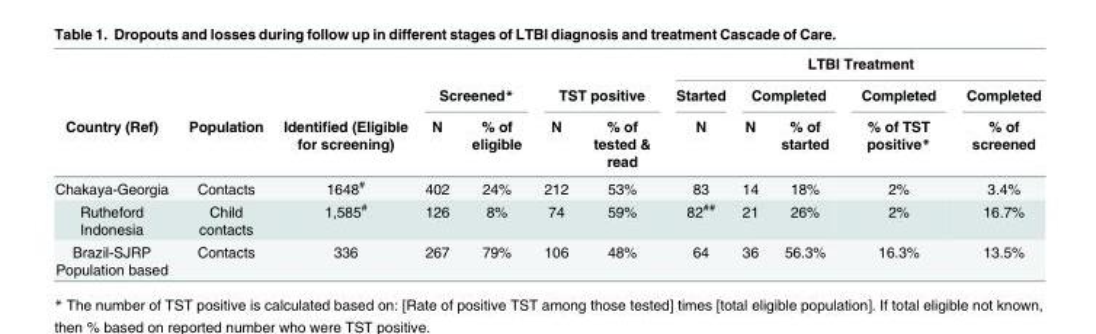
<table><thead><tr><td rowspan="3">Country (Ref)</td><td rowspan="3">Population</td><td rowspan="3">Identified (Eligible for screening)</td><td></td><td></td><td></td><td></td><td colspan="5">LTBI Treatment</td></tr><tr><td colspan="2">Screened*</td><td colspan="2">TST positive</td><td rowspan="2">Started N</td><td colspan="2">Completed</td><td rowspan="2">Completed % of TST positive*</td><td rowspan="2">Completed % of screened</td></tr><tr><td>N</td><td>% of eligible</td><td>N</td><td>% of tested &amp; read</td><td>N</td><td>% of started</td></tr></thead><tbody><tr><td>Chakaya-Georgia</td><td>Contacts</td><td>1648<sup>#</sup></td><td>402</td><td>24%</td><td>212</td><td>53%</td><td>83</td><td>14</td><td>18%</td><td>2%</td><td>3.4%</td></tr><tr><td>Rutheford Indonesia</td><td>Child contacts</td><td>1,585<sup>#</sup></td><td>126</td><td>8%</td><td>74</td><td>59%</td><td>82<sup>##</sup></td><td>21</td><td>26%</td><td>2%</td><td>16.7%</td></tr><tr><td>Brazil-SJRP Population based</td><td>Contacts</td><td>336</td><td>267</td><td>79%</td><td>106</td><td>48%</td><td>64</td><td>36</td><td>56.3%</td><td>16.3%</td><td>13.5%</td></tr></tbody></table>